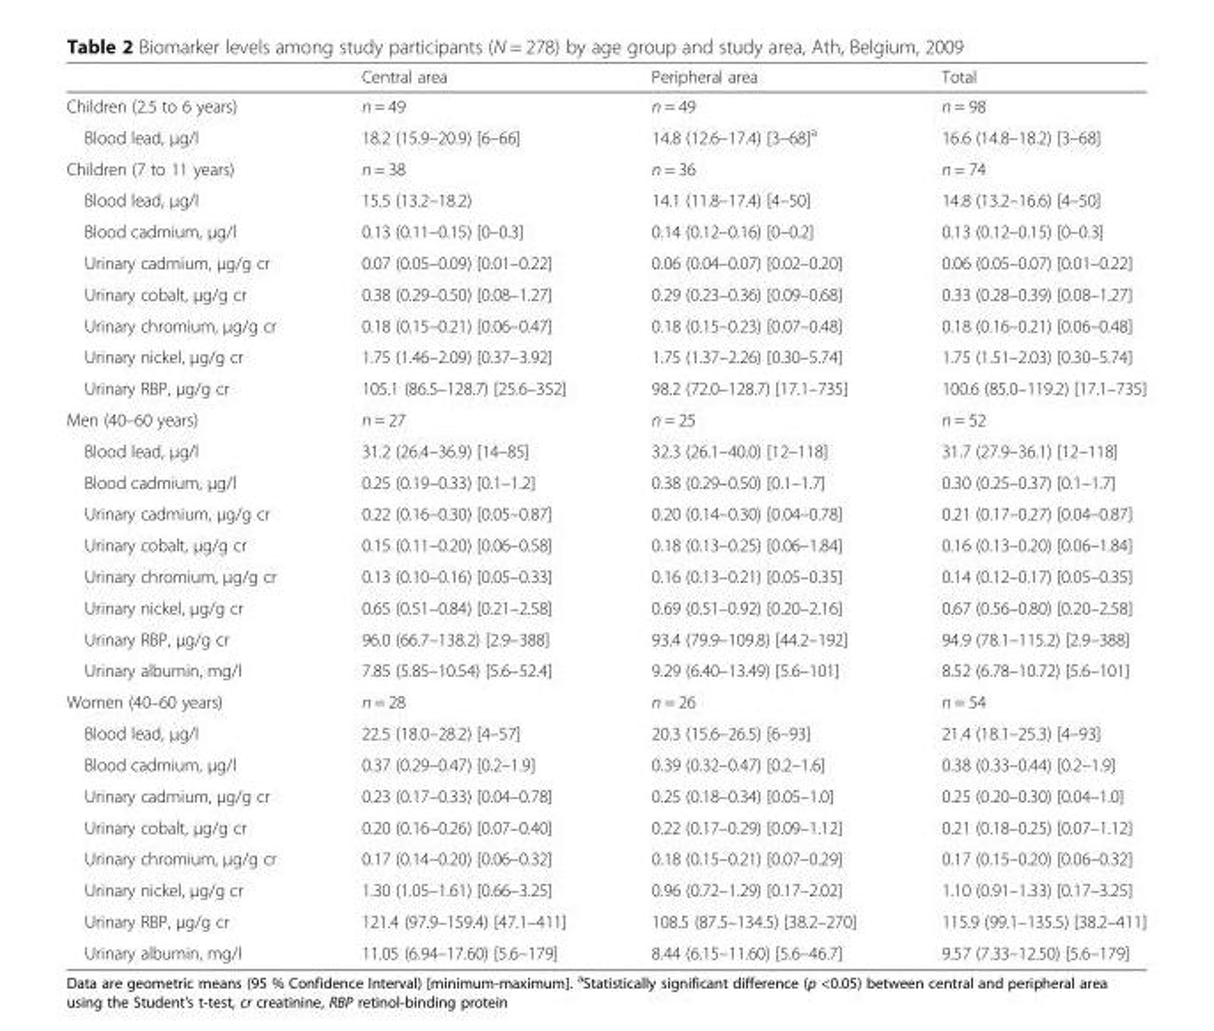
<table><thead><tr><td></td><td>Central area</td><td>Peripheral area</td><td>Total</td></tr></thead><tbody><tr><td>Children (2.5 to 6 years)</td><td>n = 49</td><td>n = 49</td><td>n = 98</td></tr><tr><td>Blood lead, μg/l</td><td>18.2 (15.9–20.9) [6–66]</td><td>14.8 (12.6–17.4) [3–68]<sup>a</sup></td><td>16.6 (14.8–18.2) [3–68]</td></tr><tr><td>Children (7 to 11 years)</td><td>n = 38</td><td>n = 36</td><td>n = 74</td></tr><tr><td>Blood lead, μg/l</td><td>15.5 (13.2–18.2)</td><td>14.1 (11.8–17.4) [4–50]</td><td>14.8 (13.2–16.6) [4–50]</td></tr><tr><td>Blood cadmium, μg/l</td><td>0.13 (0.11–0.15) [0–0.3]</td><td>0.14 (0.12–0.16) [0–0.2]</td><td>0.13 (0.12–0.15) [0–0.3]</td></tr><tr><td>Urinary cadmium, μg/g cr</td><td>0.07 (0.05–0.09) [0.01–0.22]</td><td>0.06 (0.04–0.07) [0.02–0.20]</td><td>0.06 (0.05–0.07) [0.01–0.22]</td></tr><tr><td>Urinary cobalt, μg/g cr</td><td>0.38 (0.29–0.50) [0.08–1.27]</td><td>0.29 (0.23–0.36) [0.09–0.68]</td><td>0.33 (0.28–0.39) [0.08–1.27]</td></tr><tr><td>Urinary chromium, μg/g cr</td><td>0.18 (0.15–0.21) [0.06–0.47]</td><td>0.18 (0.15–0.23) [0.07–0.48]</td><td>0.18 (0.16–0.21) [0.06–0.48]</td></tr><tr><td>Urinary nickel, μg/g cr</td><td>1.75 (1.46–2.09) [0.37–3.92]</td><td>1.75 (1.37–2.26) [0.30–5.74]</td><td>1.75 (1.51–2.03) [0.30–5.74]</td></tr><tr><td>Urinary RBP, μg/g cr</td><td>105.1 (86.5–128.7) [25.6–352]</td><td>98.2 (72.0–128.7) [17.1–735]</td><td>100.6 (85.0–119.2) [17.1–735]</td></tr><tr><td>Men (40–60 years)</td><td>n = 27</td><td>n = 25</td><td>n = 52</td></tr><tr><td>Blood lead, μg/l</td><td>31.2 (26.4–36.9) [14–85]</td><td>32.3 (26.1–40.0) [12–118]</td><td>31.7 (27.9–36.1) [12–118]</td></tr><tr><td>Blood cadmium, μg/l</td><td>0.25 (0.19–0.33) [0.1–1.2]</td><td>0.38 (0.29–0.50) [0.1–1.7]</td><td>0.30 (0.25–0.37) [0.1–1.7]</td></tr><tr><td>Urinary cadmium, μg/g cr</td><td>0.22 (0.16–0.30) [0.05–0.87]</td><td>0.20 (0.14–0.30) [0.04–0.78]</td><td>0.21 (0.17–0.27) [0.04–0.87]</td></tr><tr><td>Urinary cobalt, μg/g cr</td><td>0.15 (0.11–0.20) [0.06–0.58]</td><td>0.18 (0.13–0.25) [0.06–1.84]</td><td>0.16 (0.13–0.20) [0.06–1.84]</td></tr><tr><td>Urinary chromium, μg/g cr</td><td>0.13 (0.10–0.16) [0.05–0.33]</td><td>0.16 (0.13–0.21) [0.05–0.35]</td><td>0.14 (0.12–0.17) [0.05–0.35]</td></tr><tr><td>Urinary nickel, μg/g cr</td><td>0.65 (0.51–0.84) [0.21–2.58]</td><td>0.69 (0.51–0.92) [0.20–2.16]</td><td>0.67 (0.56–0.80) [0.20–2.58]</td></tr><tr><td>Urinary RBP, μg/g cr</td><td>96.0 (66.7–138.2) [2.9–388]</td><td>93.4 (79.9–109.8) [44.2–192]</td><td>94.9 (78.1–115.2) [2.9–388]</td></tr><tr><td>Urinary albumin, mg/l</td><td>7.85 (5.85–10.54) [5.6–52.4]</td><td>9.29 (6.40–13.49) [5.6–101]</td><td>8.52 (6.78–10.72) [5.6–101]</td></tr><tr><td>Women (40–60 years)</td><td>n = 28</td><td>n = 26</td><td>n = 54</td></tr><tr><td>Blood lead, μg/l</td><td>22.5 (18.0–28.2) [4–57]</td><td>20.3 (15.6–26.5) [6–93]</td><td>21.4 (18.1–25.3) [4–93]</td></tr><tr><td>Blood cadmium, μg/l</td><td>0.37 (0.29–0.47) [0.2–1.9]</td><td>0.39 (0.32–0.47) [0.2–1.6]</td><td>0.38 (0.33–0.44) [0.2–1.9]</td></tr><tr><td>Urinary cadmium, μg/g cr</td><td>0.23 (0.17–0.33) [0.04–0.78]</td><td>0.25 (0.18–0.34) [0.05–1.0]</td><td>0.25 (0.20–0.30) [0.04–1.0]</td></tr><tr><td>Urinary cobalt, μg/g cr</td><td>0.20 (0.16–0.26) [0.07–0.40]</td><td>0.22 (0.17–0.29) [0.09–1.12]</td><td>0.21 (0.18–0.25) [0.07–1.12]</td></tr><tr><td>Urinary chromium, μg/g cr</td><td>0.17 (0.14–0.20) [0.06–0.32]</td><td>0.18 (0.15–0.21) [0.07–0.29]</td><td>0.17 (0.15–0.20) [0.06–0.32]</td></tr><tr><td>Urinary nickel, μg/g cr</td><td>1.30 (1.05–1.61) [0.66–3.25]</td><td>0.96 (0.72–1.29) [0.17–2.02]</td><td>1.10 (0.91–1.33) [0.17–3.25]</td></tr><tr><td>Urinary RBP, μg/g cr</td><td>121.4 (97.9–159.4) [47.1–411]</td><td>108.5 (87.5–134.5) [38.2–270]</td><td>115.9 (99.1–135.5) [38.2–411]</td></tr><tr><td>Urinary albumin, mg/l</td><td>11.05 (6.94–17.60) [5.6–179]</td><td>8.44 (6.15–11.60) [5.6–46.7]</td><td>9.57 (7.33–12.50) [5.6–179]</td></tr></tbody></table>